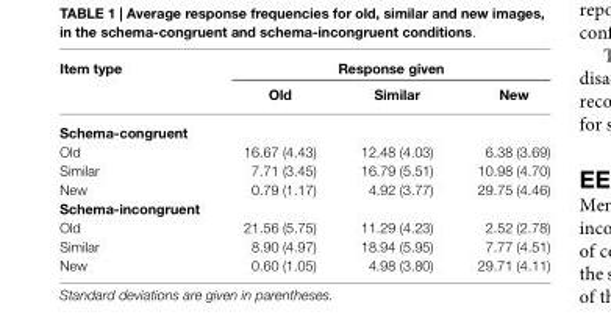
<table><thead><tr><td rowspan="2">Item type</td><td colspan="3">Response given</td></tr><tr><td>Old</td><td>Similar</td><td>New</td></tr></thead><tbody><tr><td colspan="4">Schema-congruent</td></tr><tr><td>Old</td><td>16.67 (4.43)</td><td>12.48 (4.03)</td><td>6.38 (3.69)</td></tr><tr><td>Similar</td><td>7.71 (3.45)</td><td>16.79 (5.51)</td><td>10.98 (4.70)</td></tr><tr><td>New</td><td>0.79 (1.17)</td><td>4.92 (3.77)</td><td>29.75 (4.46)</td></tr><tr><td colspan="4">Schema-incongruent</td></tr><tr><td>Old</td><td>21.56 (5.75)</td><td>11.29 (4.23)</td><td>2.52 (2.78)</td></tr><tr><td>Similar</td><td>8.90 (4.97)</td><td>18.94 (5.95)</td><td>7.77 (4.51)</td></tr><tr><td>New</td><td>0.60 (1.05)</td><td>4.98 (3.80)</td><td>29.71 (4.11)</td></tr></tbody></table>